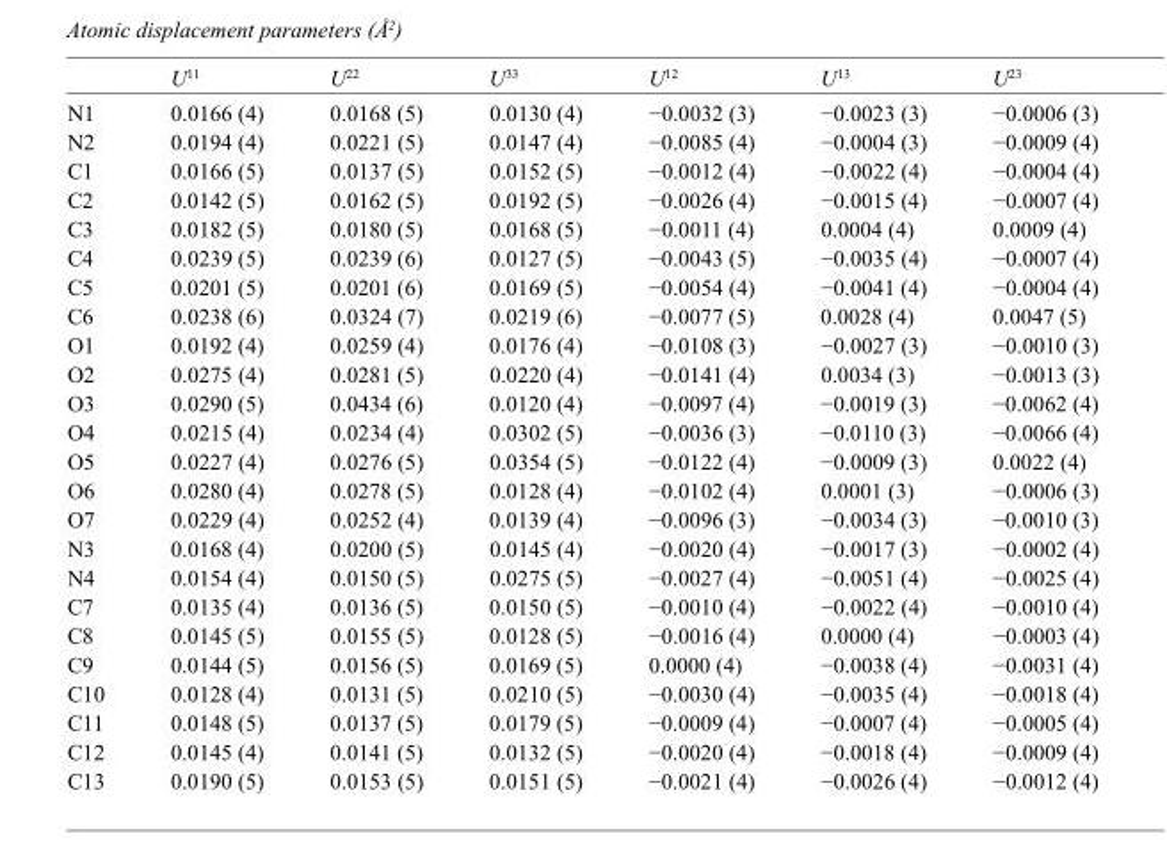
<table><thead><tr><td></td><td>U<sup>11</sup></td><td>U<sup>22</sup></td><td>U<sup>33</sup></td><td>U<sup>12</sup></td><td>U<sup>13</sup></td><td>U<sup>23</sup></td></tr></thead><tbody><tr><td>N1</td><td>0.0166 (4)</td><td>0.0168 (5)</td><td>0.0130 (4)</td><td>−0.0032 (3)</td><td>−0.0023 (3)</td><td>−0.0006 (3)</td></tr><tr><td>N2</td><td>0.0194 (4)</td><td>0.0221 (5)</td><td>0.0147 (4)</td><td>−0.0085 (4)</td><td>−0.0004 (3)</td><td>−0.0009 (4)</td></tr><tr><td>C1</td><td>0.0166 (5)</td><td>0.0137 (5)</td><td>0.0152 (5)</td><td>−0.0012 (4)</td><td>−0.0022 (4)</td><td>−0.0004 (4)</td></tr><tr><td>C2</td><td>0.0142 (5)</td><td>0.0162 (5)</td><td>0.0192 (5)</td><td>−0.0026 (4)</td><td>−0.0015 (4)</td><td>−0.0007 (4)</td></tr><tr><td>C3</td><td>0.0182 (5)</td><td>0.0180 (5)</td><td>0.0168 (5)</td><td>−0.0011 (4)</td><td>0.0004 (4)</td><td>0.0009 (4)</td></tr><tr><td>C4</td><td>0.0239 (5)</td><td>0.0239 (6)</td><td>0.0127 (5)</td><td>−0.0043 (5)</td><td>−0.0035 (4)</td><td>−0.0007 (4)</td></tr><tr><td>C5</td><td>0.0201 (5)</td><td>0.0201 (6)</td><td>0.0169 (5)</td><td>−0.0054 (4)</td><td>−0.0041 (4)</td><td>−0.0004 (4)</td></tr><tr><td>C6</td><td>0.0238 (6)</td><td>0.0324 (7)</td><td>0.0219 (6)</td><td>−0.0077 (5)</td><td>0.0028 (4)</td><td>0.0047 (5)</td></tr><tr><td>O1</td><td>0.0192 (4)</td><td>0.0259 (4)</td><td>0.0176 (4)</td><td>−0.0108 (3)</td><td>−0.0027 (3)</td><td>−0.0010 (3)</td></tr><tr><td>O2</td><td>0.0275 (4)</td><td>0.0281 (5)</td><td>0.0220 (4)</td><td>−0.0141 (4)</td><td>0.0034 (3)</td><td>−0.0013 (3)</td></tr><tr><td>O3</td><td>0.0290 (5)</td><td>0.0434 (6)</td><td>0.0120 (4)</td><td>−0.0097 (4)</td><td>−0.0019 (3)</td><td>−0.0062 (4)</td></tr><tr><td>O4</td><td>0.0215 (4)</td><td>0.0234 (4)</td><td>0.0302 (5)</td><td>−0.0036 (3)</td><td>−0.0110 (3)</td><td>−0.0066 (4)</td></tr><tr><td>O5</td><td>0.0227 (4)</td><td>0.0276 (5)</td><td>0.0354 (5)</td><td>−0.0122 (4)</td><td>−0.0009 (3)</td><td>0.0022 (4)</td></tr><tr><td>O6</td><td>0.0280 (4)</td><td>0.0278 (5)</td><td>0.0128 (4)</td><td>−0.0102 (4)</td><td>0.0001 (3)</td><td>−0.0006 (3)</td></tr><tr><td>O7</td><td>0.0229 (4)</td><td>0.0252 (4)</td><td>0.0139 (4)</td><td>−0.0096 (3)</td><td>−0.0034 (3)</td><td>−0.0010 (3)</td></tr><tr><td>N3</td><td>0.0168 (4)</td><td>0.0200 (5)</td><td>0.0145 (4)</td><td>−0.0020 (4)</td><td>−0.0017 (3)</td><td>−0.0002 (4)</td></tr><tr><td>N4</td><td>0.0154 (4)</td><td>0.0150 (5)</td><td>0.0275 (5)</td><td>−0.0027 (4)</td><td>−0.0051 (4)</td><td>−0.0025 (4)</td></tr><tr><td>C7</td><td>0.0135 (4)</td><td>0.0136 (5)</td><td>0.0150 (5)</td><td>−0.0010 (4)</td><td>−0.0022 (4)</td><td>−0.0010 (4)</td></tr><tr><td>C8</td><td>0.0145 (5)</td><td>0.0155 (5)</td><td>0.0128 (5)</td><td>−0.0016 (4)</td><td>0.0000 (4)</td><td>−0.0003 (4)</td></tr><tr><td>C9</td><td>0.0144 (5)</td><td>0.0156 (5)</td><td>0.0169 (5)</td><td>0.0000 (4)</td><td>−0.0038 (4)</td><td>−0.0031 (4)</td></tr><tr><td>C10</td><td>0.0128 (4)</td><td>0.0131 (5)</td><td>0.0210 (5)</td><td>−0.0030 (4)</td><td>−0.0035 (4)</td><td>−0.0018 (4)</td></tr><tr><td>C11</td><td>0.0148 (5)</td><td>0.0137 (5)</td><td>0.0179 (5)</td><td>−0.0009 (4)</td><td>−0.0007 (4)</td><td>−0.0005 (4)</td></tr><tr><td>C12</td><td>0.0145 (4)</td><td>0.0141 (5)</td><td>0.0132 (5)</td><td>−0.0020 (4)</td><td>−0.0018 (4)</td><td>−0.0009 (4)</td></tr><tr><td>C13</td><td>0.0190 (5)</td><td>0.0153 (5)</td><td>0.0151 (5)</td><td>−0.0021 (4)</td><td>−0.0026 (4)</td><td>−0.0012 (4)</td></tr></tbody></table>